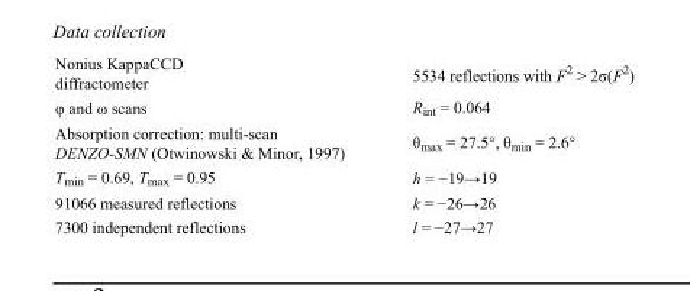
<table><tbody><tr><td>Nonius KappaCCD diffractometer</td><td>5534 reflections with F<sup>2</sup> &gt; 2σ(F<sup>2</sup>)</td></tr><tr><td>φ and ω scans</td><td>R<sub>int</sub> = 0.064</td></tr><tr><td>Absorption correction: multi-scan DENZO-SMN (Otwinowski &amp; Minor, 1997)</td><td>θ<sub>max</sub> = 27.5°, θ<sub>min</sub> = 2.6°</td></tr><tr><td>T<sub>min</sub> = 0.69, T<sub>max</sub> = 0.95</td><td>h = −19→19</td></tr><tr><td>91066 measured reflections</td><td>k = −26→26</td></tr><tr><td>7300 independent reflections</td><td>l = −27→27</td></tr></tbody></table>